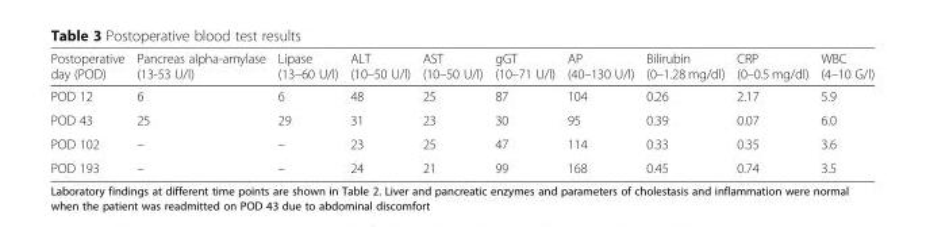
<table><thead><tr><td>Postoperative day (POD)</td><td>Pancreas alpha-amylase (13-53 U/l)</td><td>Lipase (13–60 U/l)</td><td>ALT (10–50 U/l)</td><td>AST (10–50 U/l)</td><td>gGT (10–71 U/l)</td><td>AP (40–130 U/l)</td><td>Bilirubin (0–1.28 mg/dl)</td><td>CRP (0–0.5 mg/dl)</td><td>WBC (4–10 G/l)</td></tr></thead><tbody><tr><td>POD 12</td><td>6</td><td>6</td><td>48</td><td>25</td><td>87</td><td>104</td><td>0.26</td><td>2.17</td><td>5.9</td></tr><tr><td>POD 43</td><td>25</td><td>29</td><td>31</td><td>23</td><td>30</td><td>95</td><td>0.39</td><td>0.07</td><td>6.0</td></tr><tr><td>POD 102</td><td>–</td><td>–</td><td>23</td><td>25</td><td>47</td><td>114</td><td>0.33</td><td>0.35</td><td>3.6</td></tr><tr><td>POD 193</td><td>–</td><td>–</td><td>24</td><td>21</td><td>99</td><td>168</td><td>0.45</td><td>0.74</td><td>3.5</td></tr></tbody></table>